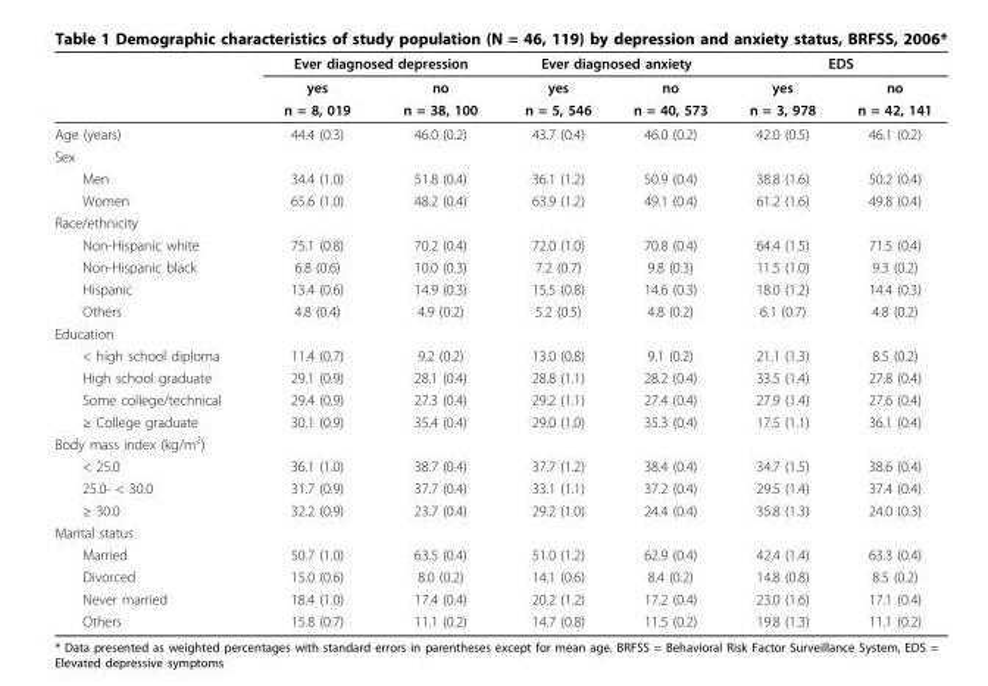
<table><thead><tr><td rowspan="3"></td><td colspan="2">Ever diagnosed depression</td><td colspan="2">Ever diagnosed anxiety</td><td colspan="2">EDS</td></tr><tr><td rowspan="2">yes n = 8, 019</td><td rowspan="2">no n = 38, 100</td><td rowspan="2">yes n = 5, 546</td><td rowspan="2">no n = 40, 573</td><td rowspan="2">yes n = 3, 978</td><td rowspan="2">no n = 42, 141</td></tr><tr></tr></thead><tbody><tr><td>Age (years)</td><td>44.4 (0.3)</td><td>46.0 (0.2)</td><td>43.7 (0.4)</td><td>46.0 (0.2)</td><td>42.0 (0.5)</td><td>46.1 (0.2)</td></tr><tr><td colspan="7">Sex</td></tr><tr><td>Men</td><td>34.4 (1.0)</td><td>51.8 (0.4)</td><td>36.1 (1.2)</td><td>50.9 (0.4)</td><td>38.8 (1.6)</td><td>50.2 (0.4)</td></tr><tr><td>Women</td><td>65.6 (1.0)</td><td>48.2 (0.4)</td><td>63.9 (1.2)</td><td>49.1 (0.4)</td><td>61.2 (1.6)</td><td>49.8 (0.4)</td></tr><tr><td colspan="7">Race/ethnicity</td></tr><tr><td>Non-Hispanic white</td><td>75.1 (0.8)</td><td>70.2 (0.4)</td><td>72.0 (1.0)</td><td>70.8 (0.4)</td><td>64.4 (1.5)</td><td>71.5 (0.4)</td></tr><tr><td>Non-Hispanic black</td><td>6.8 (0.6)</td><td>10.0 (0.3)</td><td>7.2 (0.7)</td><td>9.8 (0.3)</td><td>11.5 (1.0)</td><td>9.3 (0.2)</td></tr><tr><td>Hispanic</td><td>13.4 (0.6)</td><td>14.9 (0.3)</td><td>15.5 (0.8)</td><td>14.6 (0.3)</td><td>18.0 (1.2)</td><td>14.4 (0.3)</td></tr><tr><td>Others</td><td>4.8 (0.4)</td><td>4.9 (0.2)</td><td>5.2 (0.5)</td><td>4.8 (0.2)</td><td>6.1 (0.7)</td><td>4.8 (0.2)</td></tr><tr><td colspan="7">Education</td></tr><tr><td>&lt; high school diploma</td><td>11.4 (0.7)</td><td>9.2 (0.2)</td><td>13.0 (0.8)</td><td>9.1 (0.2)</td><td>21.1 (1.3)</td><td>8.5 (0.2)</td></tr><tr><td>High school graduate</td><td>29.1 (0.9)</td><td>28.1 (0.4)</td><td>28.8 (1.1)</td><td>28.2 (0.4)</td><td>33.5 (1.4)</td><td>27.8 (0.4)</td></tr><tr><td>Some college/technical</td><td>29.4 (0.9)</td><td>27.3 (0.4)</td><td>29.2 (1.1)</td><td>27.4 (0.4)</td><td>27.9 (1.4)</td><td>27.6 (0.4)</td></tr><tr><td>≥ College graduate</td><td>30.1 (0.9)</td><td>35.4 (0.4)</td><td>29.0 (1.0)</td><td>35.3 (0.4)</td><td>17.5 (1.1)</td><td>36.1 (0.4)</td></tr><tr><td colspan="7">Body mass index (kg/m<sup>2</sup>)</td></tr><tr><td>&lt; 25.0</td><td>36.1 (1.0)</td><td>38.7 (0.4)</td><td>37.7 (1.2)</td><td>38.4 (0.4)</td><td>34.7 (1.5)</td><td>38.6 (0.4)</td></tr><tr><td>25.0- &lt; 30.0</td><td>31.7 (0.9)</td><td>37.7 (0.4)</td><td>33.1 (1.1)</td><td>37.2 (0.4)</td><td>29.5 (1.4)</td><td>37.4 (0.4)</td></tr><tr><td>≥ 30.0</td><td>32.2 (0.9)</td><td>23.7 (0.4)</td><td>29.2 (1.0)</td><td>24.4 (0.4)</td><td>35.8 (1.3)</td><td>24.0 (0.3)</td></tr><tr><td colspan="7">Marital status</td></tr><tr><td>Married</td><td>50.7 (1.0)</td><td>63.5 (0.4)</td><td>51.0 (1.2)</td><td>62.9 (0.4)</td><td>42.4 (1.4)</td><td>63.3 (0.4)</td></tr><tr><td>Divorced</td><td>15.0 (0.6)</td><td>8.0 (0.2)</td><td>14.1 (0.6)</td><td>8.4 (0.2)</td><td>14.8 (0.8)</td><td>8.5 (0.2)</td></tr><tr><td>Never married</td><td>18.4 (1.0)</td><td>17.4 (0.4)</td><td>20.2 (1.2)</td><td>17.2 (0.4)</td><td>23.0 (1.6)</td><td>17.1 (0.4)</td></tr><tr><td>Others</td><td>15.8 (0.7)</td><td>11.1 (0.2)</td><td>14.7 (0.8)</td><td>11.5 (0.2)</td><td>19.8 (1.3)</td><td>11.1 (0.2)</td></tr></tbody></table>